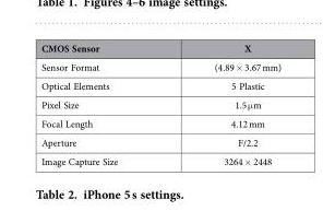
<table><thead><tr><td>CMOS Sensor</td><td>X</td></tr></thead><tbody><tr><td>Sensor Format</td><td>(4.89 × 3.67 mm)</td></tr><tr><td>Optical Elements</td><td>5 Plastic</td></tr><tr><td>Pixel Size</td><td>1.5 μ m</td></tr><tr><td>Focal Length</td><td>4.12 mm</td></tr><tr><td>Aperture</td><td>F/2.2</td></tr><tr><td>Image Capture Size</td><td>3264 × 2448</td></tr></tbody></table>